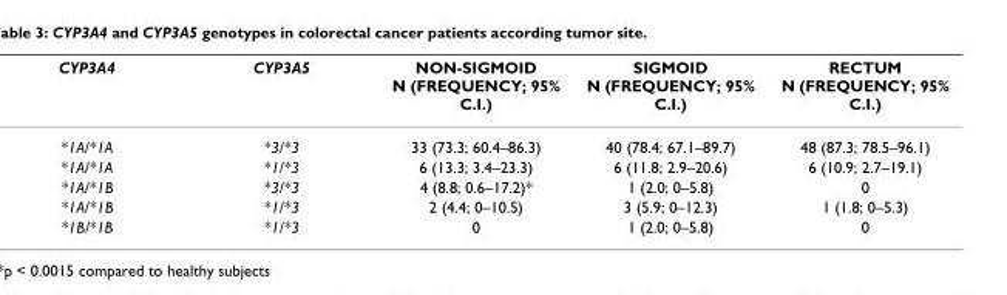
<table><thead><tr><td>CYP3A4</td><td>CYP3A5</td><td>NON-SIGMOID N (FREQUENCY; 95% C.I.)</td><td>SIGMOID N (FREQUENCY; 95% C.I.)</td><td>RECTUM N (FREQUENCY; 95% C.I.)</td></tr></thead><tbody><tr><td>*1A/*1A</td><td>*3/*3</td><td>33 (73.3; 60.4–86.3)</td><td>40 (78.4; 67.1–89.7)</td><td>48 (87.3; 78.5–96.1)</td></tr><tr><td>*1A/*1A</td><td>*1/*3</td><td>6 (13.3; 3.4–23.3)</td><td>6 (11.8; 2.9–20.6)</td><td>6 (10.9; 2.7–19.1)</td></tr><tr><td>*1A/*1B</td><td>*3/*3</td><td>4 (8.8; 0.6–17.2)*</td><td>1 (2.0; 0–5.8)</td><td>0</td></tr><tr><td>*1A/*1B</td><td>*1/*3</td><td>2 (4.4; 0–10.5)</td><td>3 (5.9; 0–12.3)</td><td>1 (1.8; 0–5.3)</td></tr><tr><td>*1B/*1B</td><td>*1/*3</td><td>0</td><td>1 (2.0; 0–5.8)</td><td>0</td></tr></tbody></table>